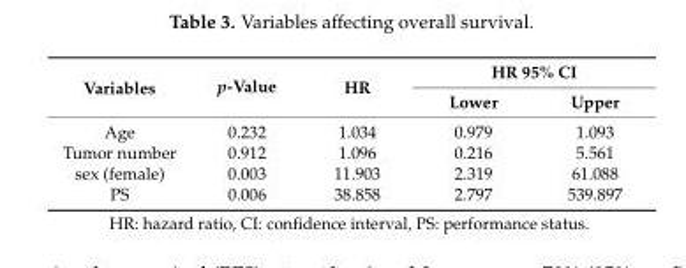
<table><thead><tr><td rowspan="2">Variables</td><td rowspan="2">p-Value</td><td rowspan="2">HR</td><td colspan="2">HR 95% CI</td></tr><tr><td>Lower</td><td>Upper</td></tr></thead><tbody><tr><td>Age</td><td>0.232</td><td>1.034</td><td>0.979</td><td>1.093</td></tr><tr><td>Tumor number</td><td>0.912</td><td>1.096</td><td>0.216</td><td>5.561</td></tr><tr><td>sex (female)</td><td>0.003</td><td>11.903</td><td>2.319</td><td>61.088</td></tr><tr><td>PS</td><td>0.006</td><td>38.858</td><td>2.797</td><td>539.897</td></tr></tbody></table>